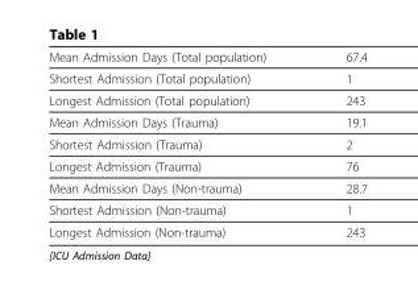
<table><tbody><tr><td>Mean Admission Days (Total population)</td><td>67.4</td></tr><tr><td>Shortest Admission (Total population)</td><td>1</td></tr><tr><td>Longest Admission (Total population)</td><td>243</td></tr><tr><td>Mean Admission Days (Trauma)</td><td>19.1</td></tr><tr><td>Shortest Admission (Trauma)</td><td>2</td></tr><tr><td>Longest Admission (Trauma)</td><td>76</td></tr><tr><td>Mean Admission Days (Non-trauma)</td><td>28.7</td></tr><tr><td>Shortest Admission (Non-trauma)</td><td>1</td></tr><tr><td>Longest Admission (Non-trauma)</td><td>243</td></tr></tbody></table>